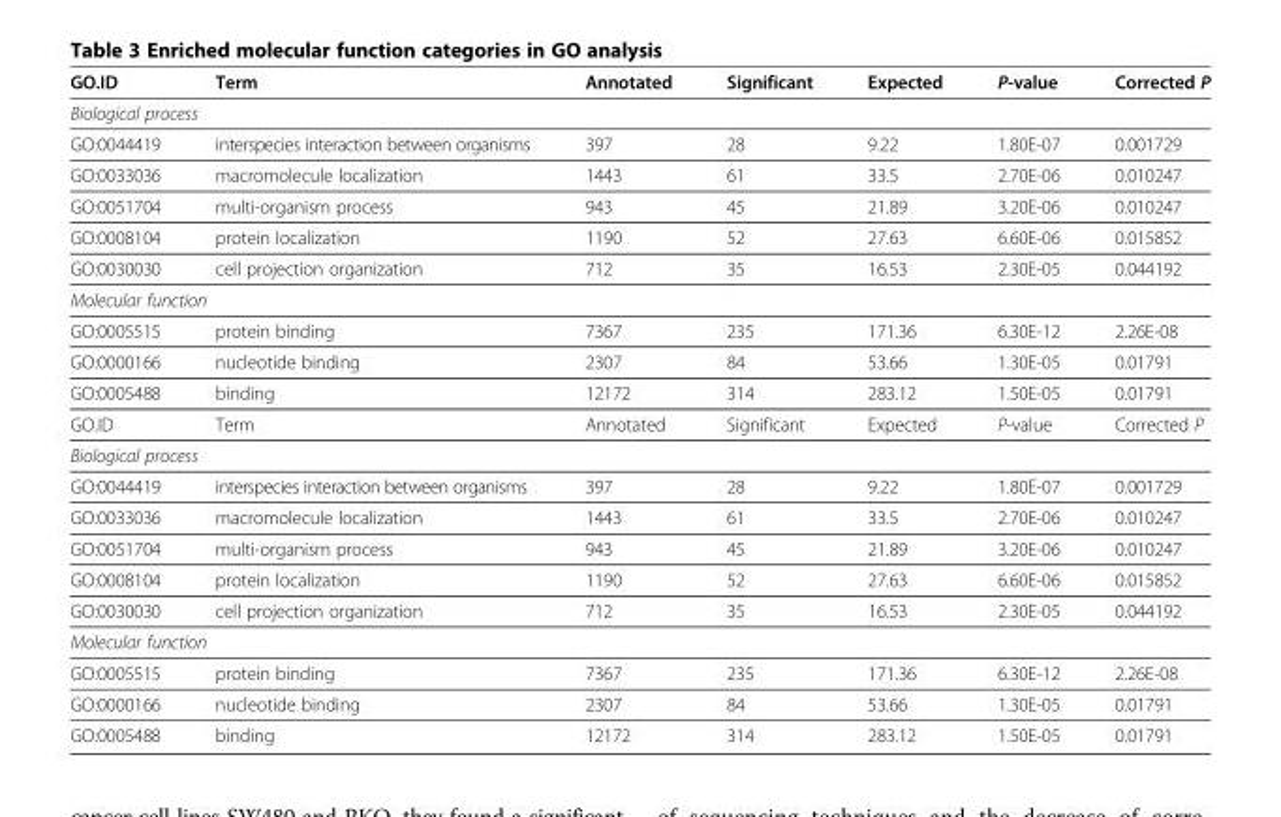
<table><thead><tr><td>GO.ID</td><td>Term</td><td>Annotated</td><td>Significant</td><td>Expected</td><td>P-value</td><td>Corrected P</td></tr></thead><tbody><tr><td colspan="7">Biological process</td></tr><tr><td>GO:0044419</td><td>interspecies interaction between organisms</td><td>397</td><td>28</td><td>9.22</td><td>1.80E-07</td><td>0.001729</td></tr><tr><td>GO:0033036</td><td>macromolecule localization</td><td>1443</td><td>61</td><td>33.5</td><td>2.70E-06</td><td>0.010247</td></tr><tr><td>GO:0051704</td><td>multi-organism process</td><td>943</td><td>45</td><td>21.89</td><td>3.20E-06</td><td>0.010247</td></tr><tr><td>GO:0008104</td><td>protein localization</td><td>1190</td><td>52</td><td>27.63</td><td>6.60E-06</td><td>0.015852</td></tr><tr><td>GO:0030030</td><td>cell projection organization</td><td>712</td><td>35</td><td>16.53</td><td>2.30E-05</td><td>0.044192</td></tr><tr><td colspan="7">Molecular function</td></tr><tr><td>GO:0005515</td><td>protein binding</td><td>7367</td><td>235</td><td>171.36</td><td>6.30E-12</td><td>2.26E-08</td></tr><tr><td>GO:0000166</td><td>nucleotide binding</td><td>2307</td><td>84</td><td>53.66</td><td>1.30E-05</td><td>0.01791</td></tr><tr><td>GO:0005488</td><td>binding</td><td>12172</td><td>314</td><td>283.12</td><td>1.50E-05</td><td>0.01791</td></tr><tr><td>GO.ID</td><td>Term</td><td>Annotated</td><td>Significant</td><td>Expected</td><td>P-value</td><td>Corrected P</td></tr><tr><td colspan="7">Biological process</td></tr><tr><td>GO:0044419</td><td>interspecies interaction between organisms</td><td>397</td><td>28</td><td>9.22</td><td>1.80E-07</td><td>0.001729</td></tr><tr><td>GO:0033036</td><td>macromolecule localization</td><td>1443</td><td>61</td><td>33.5</td><td>2.70E-06</td><td>0.010247</td></tr><tr><td>GO:0051704</td><td>multi-organism process</td><td>943</td><td>45</td><td>21.89</td><td>3.20E-06</td><td>0.010247</td></tr><tr><td>GO:0008104</td><td>protein localization</td><td>1190</td><td>52</td><td>27.63</td><td>6.60E-06</td><td>0.015852</td></tr><tr><td>GO:0030030</td><td>cell projection organization</td><td>712</td><td>35</td><td>16.53</td><td>2.30E-05</td><td>0.044192</td></tr><tr><td colspan="7">Molecular function</td></tr><tr><td>GO:0005515</td><td>protein binding</td><td>7367</td><td>235</td><td>171.36</td><td>6.30E-12</td><td>2.26E-08</td></tr><tr><td>GO:0000166</td><td>nucleotide binding</td><td>2307</td><td>84</td><td>53.66</td><td>1.30E-05</td><td>0.01791</td></tr><tr><td>GO:0005488</td><td>binding</td><td>12172</td><td>314</td><td>283.12</td><td>1.50E-05</td><td>0.01791</td></tr></tbody></table>